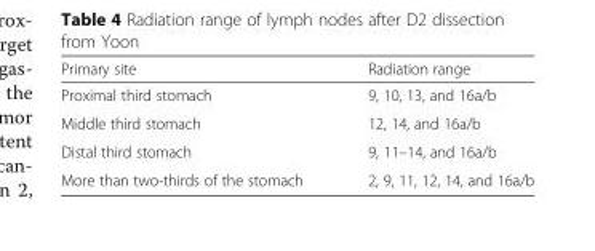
<table><thead><tr><td>Primary site</td><td>Radiation range</td></tr></thead><tbody><tr><td>Proximal third stomach</td><td>9, 10, 13, and 16a/b</td></tr><tr><td>Middle third stomach</td><td>12, 14, and 16a/b</td></tr><tr><td>Distal third stomach</td><td>9, 11–14, and 16a/b</td></tr><tr><td>More than two-thirds of the stomach</td><td>2, 9, 11, 12, 14, and 16a/b</td></tr></tbody></table>